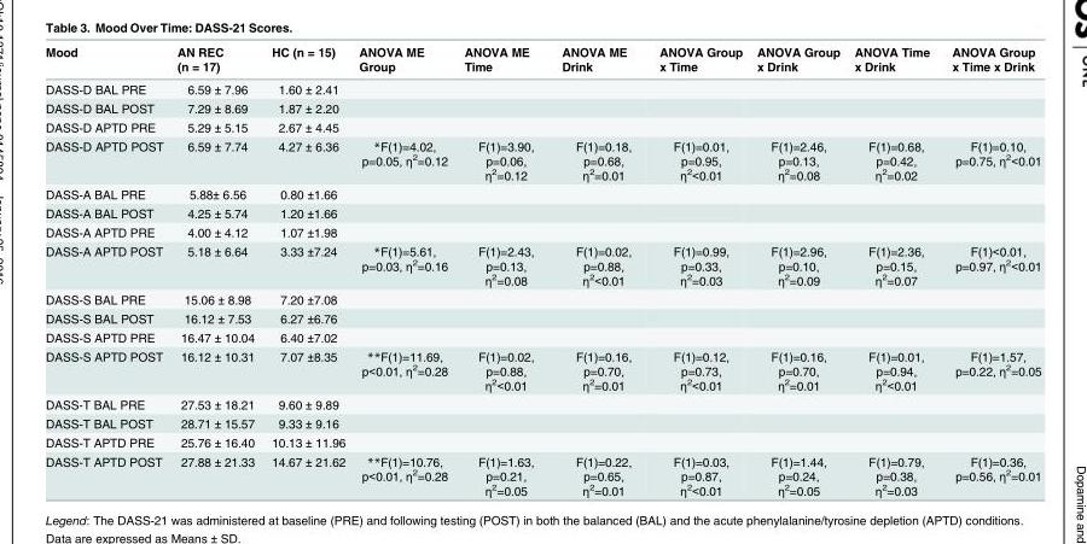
<table><thead><tr><td>Mood</td><td>AN REC (n = 17)</td><td>HC (n = 15)</td><td>ANOVA ME Group</td><td>ANOVA ME Time</td><td>ANOVA ME Drink</td><td>ANOVA Group x Time</td><td>ANOVA Group x Drink</td><td>ANOVA Time x Drink</td><td>ANOVA Group x Time x Drink</td></tr></thead><tbody><tr><td>DASS-D BAL PRE</td><td>6.59 ± 7.96</td><td>1.60 ± 2.41</td><td></td><td></td><td></td><td></td><td></td><td></td><td></td></tr><tr><td>DASS-D BAL POST</td><td>7.29 ± 8.69</td><td>1.87 ± 2.20</td><td></td><td></td><td></td><td></td><td></td><td></td><td></td></tr><tr><td>DASS-D APTD PRE</td><td>5.29 ± 5.15</td><td>2.67 ± 4.45</td><td></td><td></td><td></td><td></td><td></td><td></td><td></td></tr><tr><td>DASS-D APTD POST</td><td>6.59 ± 7.74</td><td>4.27 ± 6.36</td><td>*F(1)=4.02, p=0.05, η<sup>2</sup>=0.12</td><td>F(1)=3.90, p=0.06, η<sup>2</sup>=0.12</td><td>F(1)=0.18, p=0.68, η<sup>2</sup>=0.01</td><td>F(1)=0.01, p=0.95, η<sup>2</sup>&lt;0.01</td><td>F(1)=2.46, p=0.13, η<sup>2</sup>=0.08</td><td>F(1)=0.68, p=0.42, η<sup>2</sup>=0.02</td><td>F(1)=0.10, p=0.75, η<sup>2</sup>&lt;0.01</td></tr><tr><td>DASS-A BAL PRE</td><td>5.88± 6.56</td><td>0.80 ±1.66</td><td></td><td></td><td></td><td></td><td></td><td></td><td></td></tr><tr><td>DASS-A BAL POST</td><td>4.25 ± 5.74</td><td>1.20 ±1.66</td><td></td><td></td><td></td><td></td><td></td><td></td><td></td></tr><tr><td>DASS-A APTD PRE</td><td>4.00 ± 4.12</td><td>1.07 ±1.98</td><td></td><td></td><td></td><td></td><td></td><td></td><td></td></tr><tr><td>DASS-A APTD POST</td><td>5.18 ± 6.64</td><td>3.33 ±7.24</td><td>*F(1)=5.61, p=0.03, η<sup>2</sup>=0.16</td><td>F(1)=2.43, p=0.13, η<sup>2</sup>=0.08</td><td>F(1)=0.02, p=0.88, η<sup>2</sup>&lt;0.01</td><td>F(1)=0.99, p=0.33, η<sup>2</sup>=0.03</td><td>F(1)=2.96, p=0.10, η<sup>2</sup>=0.09</td><td>F(1)=2.36, p=0.15, η<sup>2</sup>=0.07</td><td>F(1)&lt;0.01, p=0.97, η<sup>2</sup>&lt;0.01</td></tr><tr><td>DASS-S BAL PRE</td><td>15.06 ± 8.98</td><td>7.20 ±7.08</td><td></td><td></td><td></td><td></td><td></td><td></td><td></td></tr><tr><td>DASS-S BAL POST</td><td>16.12 ± 7.53</td><td>6.27 ±6.76</td><td></td><td></td><td></td><td></td><td></td><td></td><td></td></tr><tr><td>DASS-S APTD PRE</td><td>16.47 ± 10.04</td><td>6.40 ±7.02</td><td></td><td></td><td></td><td></td><td></td><td></td><td></td></tr><tr><td>DASS-S APTD POST</td><td>16.12 ± 10.31</td><td>7.07 ±8.35</td><td>**F(1)=11.69, p&lt;0.01, η<sup>2</sup>=0.28</td><td>F(1)=0.02, p=0.88, η<sup>2</sup>&lt;0.01</td><td>F(1)=0.16, p=0.70, η<sup>2</sup>=0.01</td><td>F(1)=0.12, p=0.73, η<sup>2</sup>&lt;0.01</td><td>F(1)=0.16, p=0.70, η<sup>2</sup>=0.01</td><td>F(1)=0.01, p=0.94, η<sup>2</sup>&lt;0.01</td><td>F(1)=1.57, p=0.22, η<sup>2</sup>=0.05</td></tr><tr><td>DASS-T BAL PRE</td><td>27.53 ± 18.21</td><td>9.60 ± 9.89</td><td></td><td></td><td></td><td></td><td></td><td></td><td></td></tr><tr><td>DASS-T BAL POST</td><td>28.71 ± 15.57</td><td>9.33 ± 9.16</td><td></td><td></td><td></td><td></td><td></td><td></td><td></td></tr><tr><td>DASS-T APTD PRE</td><td>25.76 ± 16.40</td><td>10.13 ± 11.96</td><td></td><td></td><td></td><td></td><td></td><td></td><td></td></tr><tr><td>DASS-T APTD POST</td><td>27.88 ± 21.33</td><td>14.67 ± 21.62</td><td>**F(1)=10.76, p&lt;0.01, η<sup>2</sup>=0.28</td><td>F(1)=1.63, p=0.21, η<sup>2</sup>=0.05</td><td>F(1)=0.22, p=0.65, η<sup>2</sup>=0.01</td><td>F(1)=0.03, p=0.87, η<sup>2</sup>&lt;0.01</td><td>F(1)=1.44, p=0.24, η<sup>2</sup>=0.05</td><td>F(1)=0.79, p=0.38, η<sup>2</sup>=0.03</td><td>F(1)=0.36, p=0.56, η<sup>2</sup>=0.01</td></tr></tbody></table>